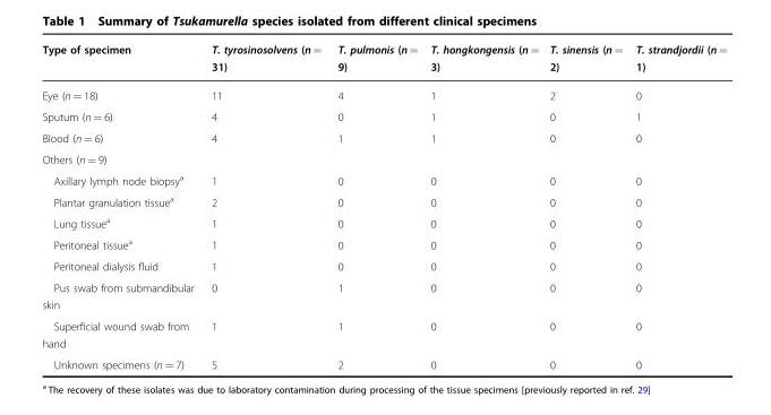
<table><thead><tr><td>Type of specimen</td><td>T. tyrosinosolvens (n = 31)</td><td>T. pulmonis (n = 9)</td><td>T. hongkongensis (n = 3)</td><td>T. sinensis (n = 2)</td><td>T. strandjordii (n = 1)</td></tr></thead><tbody><tr><td>Eye (n = 18)</td><td>11</td><td>4</td><td>1</td><td>2</td><td>0</td></tr><tr><td>Sputum (n = 6)</td><td>4</td><td>0</td><td>1</td><td>0</td><td>1</td></tr><tr><td>Blood (n = 6)</td><td>4</td><td>1</td><td>1</td><td>0</td><td>0</td></tr><tr><td colspan="6">Others (n = 9)</td></tr><tr><td>Axillary lymph node biopsy<sup>a</sup></td><td>1</td><td>0</td><td>0</td><td>0</td><td>0</td></tr><tr><td>Plantar granulation tissue<sup>a</sup></td><td>2</td><td>0</td><td>0</td><td>0</td><td>0</td></tr><tr><td>Lung tissue<sup>a</sup></td><td>1</td><td>0</td><td>0</td><td>0</td><td>0</td></tr><tr><td>Peritoneal tissue<sup>a</sup></td><td>1</td><td>0</td><td>0</td><td>0</td><td>0</td></tr><tr><td>Peritoneal dialysis fluid</td><td>1</td><td>0</td><td>0</td><td>0</td><td>0</td></tr><tr><td>Pus swab from submandibular skin</td><td>0</td><td>1</td><td>0</td><td>0</td><td>0</td></tr><tr><td>Superficial wound swab from hand</td><td>1</td><td>1</td><td>0</td><td>0</td><td>0</td></tr><tr><td>Unknown specimens (n = 7)</td><td>5</td><td>2</td><td>0</td><td>0</td><td>0</td></tr></tbody></table>